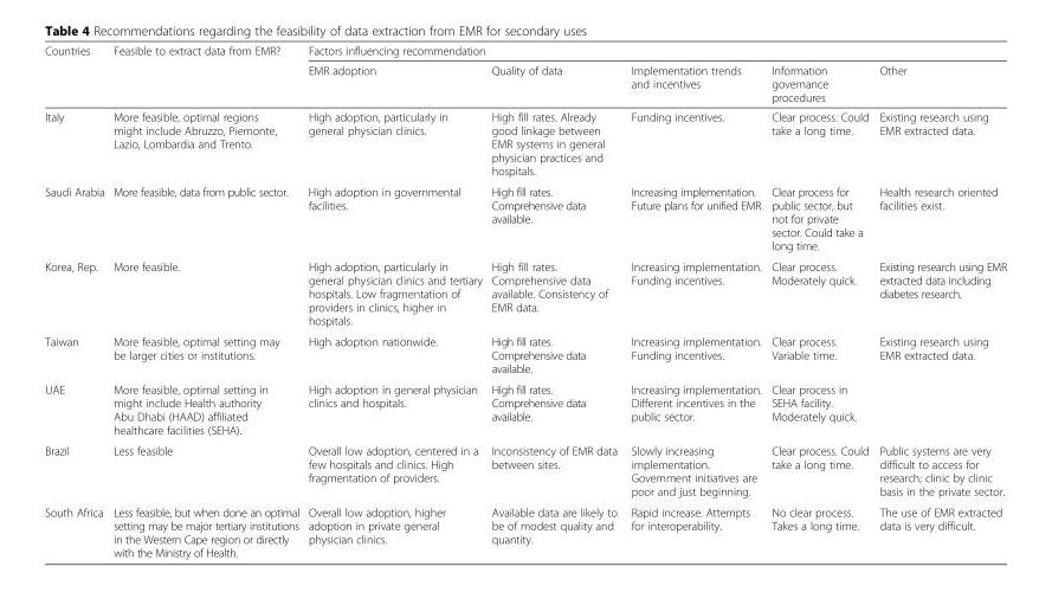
<table><thead><tr><td rowspan="2">Countries</td><td rowspan="2">Feasible to extract data from EMR?</td><td colspan="5">Factors influencing recommendation</td></tr><tr><td>EMR adoption</td><td>Quality of data</td><td>Implementation trends and incentives</td><td>Information governance procedures</td><td>Other</td></tr></thead><tbody><tr><td>Italy</td><td>More feasible, optimal regions might include Abruzzo, Piemonte, Lazio, Lombardia and Trento.</td><td>High adoption, particularly in general physician clinics.</td><td>High fill rates. Already good linkage between EMR systems in general physician practices and hospitals.</td><td>Funding incentives.</td><td>Clear process. Could take a long time.</td><td>Existing research using EMR extracted data.</td></tr><tr><td>Saudi Arabia</td><td>More feasible, data from public sector.</td><td>High adoption in governmental facilities.</td><td>High fill rates. Comprehensive data available.</td><td>Increasing implementation. Future plans for unified EMR.</td><td>Clear process for public sector, but not for private sector. Could take a long time.</td><td>Health research oriented facilities exist.</td></tr><tr><td>Korea, Rep.</td><td>More feasible.</td><td>High adoption, particularly in general physician clinics and tertiary hospitals. Low fragmentation of providers in clinics, higher in hospitals.</td><td>High fill rates. Comprehensive data available. Consistency of EMR data.</td><td>Increasing implementation. Funding incentives.</td><td>Clear process. Moderately quick.</td><td>Existing research using EMR extracted data including diabetes research.</td></tr><tr><td>Taiwan</td><td>More feasible, optimal setting may be larger cities or institutions.</td><td>High adoption nationwide.</td><td>High fill rates. Comprehensive data available.</td><td>Increasing implementation. Funding incentives.</td><td>Clear process. Variable time.</td><td>Existing research using EMR extracted data.</td></tr><tr><td>UAE</td><td>More feasible, optimal setting in might include Health authority Abu Dhabi (HAAD) affiliated healthcare facilities (SEHA).</td><td>High adoption in general physician clinics and hospitals.</td><td>High fill rates. Comprehensive data available.</td><td>Increasing implementation. Different incentives in the public sector.</td><td>Clear process in SEHA facility. Moderately quick.</td><td></td></tr><tr><td>Brazil</td><td>Less feasible</td><td>Overall low adoption, centered in a few hospitals and clinics. High fragmentation of providers.</td><td>Inconsistency of EMR data between sites.</td><td>Slowly increasing implementation. Government initiatives are poor and just beginning.</td><td>Clear process. Could take a long time.</td><td>Public systems are very difficult to access for research; clinic by clinic basis in the private sector.</td></tr><tr><td>South Africa</td><td>Less feasible, but when done an optimal setting may be major tertiary institutions in the Western Cape region or directly with the Ministry of Health.</td><td>Overall low adoption, higher adoption in private general physician clinics.</td><td>Available data are likely to be of modest quality and quantity.</td><td>Rapid increase. Attempts for interoperability.</td><td>No clear process. Takes a long time.</td><td>The use of EMR extracted data is very difficult.</td></tr></tbody></table>